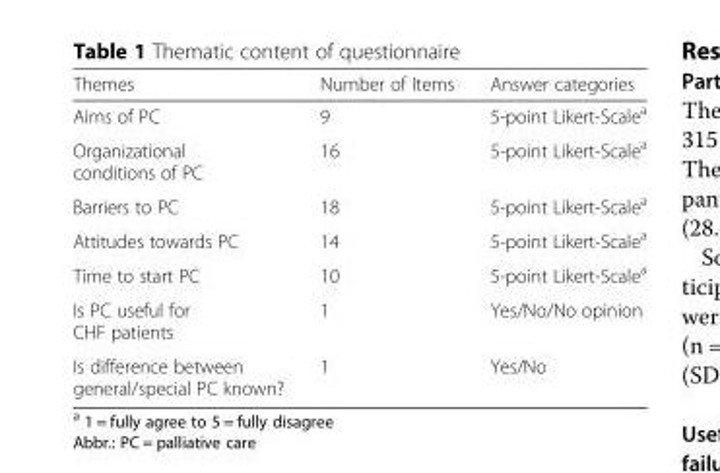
<table><thead><tr><td>Themes</td><td>Number of Items</td><td>Answer categories</td></tr></thead><tbody><tr><td>Aims of PC</td><td>9</td><td>5-point Likert-Scale<sup>a</sup></td></tr><tr><td>Organizational conditions of PC</td><td>16</td><td>5-point Likert-Scale<sup>a</sup></td></tr><tr><td>Barriers to PC</td><td>18</td><td>5-point Likert-Scale<sup>a</sup></td></tr><tr><td>Attitudes towards PC</td><td>14</td><td>5-point Likert-Scale<sup>a</sup></td></tr><tr><td>Time to start PC</td><td>10</td><td>5-point Likert-Scale<sup>a</sup></td></tr><tr><td>Is PC useful for CHF patients</td><td>1</td><td>Yes/No/No opinion</td></tr><tr><td>Is difference between general/special PC known?</td><td>1</td><td>Yes/No</td></tr></tbody></table>